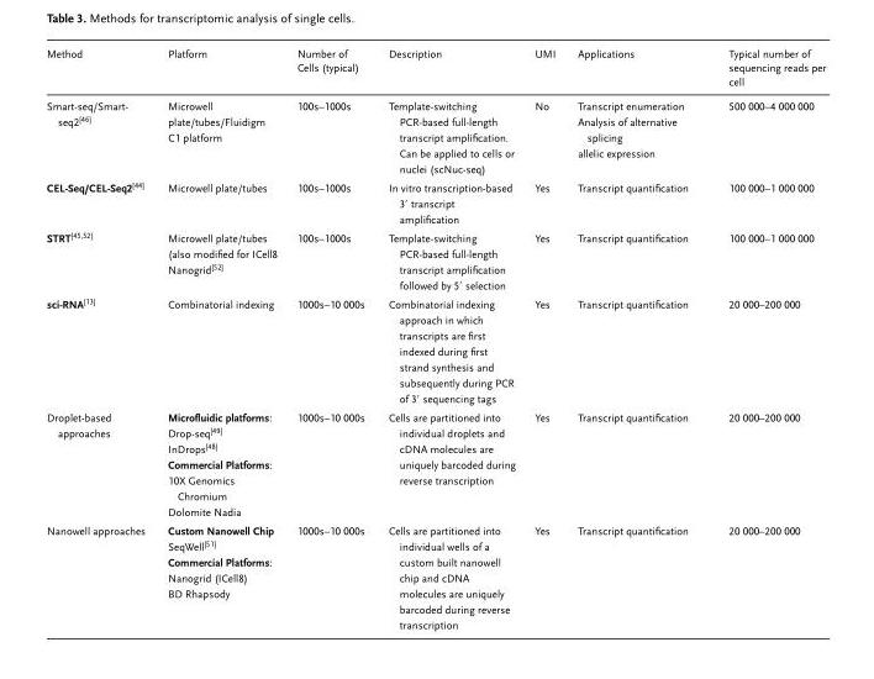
<table><thead><tr><td>Method</td><td>Platform</td><td>Number of Cells (typical)</td><td>Description</td><td>UMI</td><td>Applications</td><td>Typical number of sequencing reads per cell</td></tr></thead><tbody><tr><td>Smart-seq/Smart- seq2[46]</td><td>Microwell plate/tubes/Fluidigm C1 platform</td><td>100s–1000s</td><td>Template-switching PCR-based full-length transcript amplification. Can be applied to cells or nuclei (scNuc-seq)</td><td>No</td><td>Transcript enumeration Analysis of alternative splicing allelic expression</td><td>500 000–4 000 000</td></tr><tr><td>CEL-Seq/CEL-Seq2[44]</td><td>Microwell plate/tubes</td><td>100s–1000s</td><td>In vitro transcription-based 3′ transcript amplification</td><td>Yes</td><td>Transcript quantification</td><td>100 000–1 000 000</td></tr><tr><td>STRT[45,52]</td><td>Microwell plate/tubes (also modified for ICell8 Nanogrid[52]</td><td>100s–1000s</td><td>Template-switching PCR-based full-length transcript amplification followed by 5′ selection</td><td>Yes</td><td>Transcript quantification</td><td>100 000–1 000 000</td></tr><tr><td>sci-RNA[13]</td><td>Combinatorial indexing</td><td>1000s–10 000s</td><td>Combinatorial indexing approach in which transcripts are first indexed during first strand synthesis and subsequently during PCR of 3′ sequencing tags</td><td>Yes</td><td>Transcript quantification</td><td>20 000–200 000</td></tr><tr><td>Droplet-based approaches</td><td>Microfluidic platforms: Drop-seq[49] InDrops[48] Commercial Platforms: 10X Genomics Chromium Dolomite Nadia</td><td>1000s–10 000s</td><td>Cells are partitioned into individual droplets and cDNA molecules are uniquely barcoded during reverse transcription</td><td>Yes</td><td>Transcript quantification</td><td>20 000–200 000</td></tr><tr><td>Nanowell approaches</td><td>Custom Nanowell Chip SeqWell[51] Commercial Platforms: Nanogrid (ICell8) BD Rhapsody</td><td>1000s–10 000s</td><td>Cells are partitioned into individual wells of a custom built nanowell chip and cDNA molecules are uniquely barcoded during reverse transcription</td><td>Yes</td><td>Transcript quantification</td><td>20 000–200 000</td></tr></tbody></table>